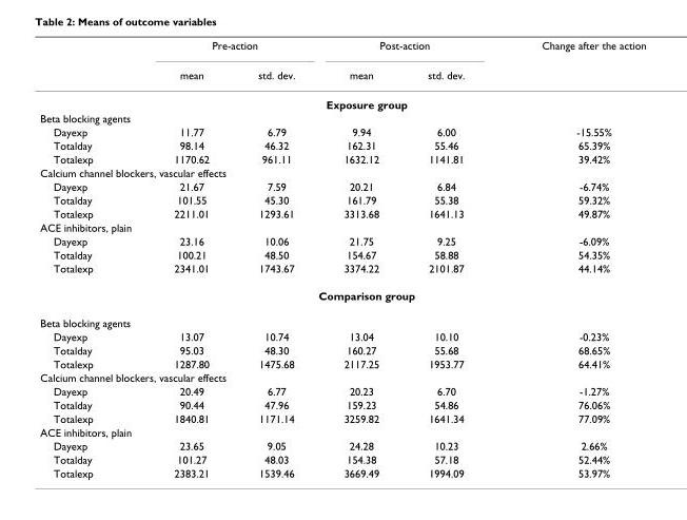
<table><thead><tr><td rowspan="2"></td><td colspan="2">Pre-action</td><td colspan="2">Post-action</td><td rowspan="2">Change after the action</td></tr><tr><td>mean</td><td>std. dev.</td><td>mean</td><td>std. dev.</td></tr></thead><tbody><tr><td colspan="6">Exposure group</td></tr><tr><td colspan="6">Beta blocking agents</td></tr><tr><td>Dayexp</td><td>11.77</td><td>6.79</td><td>9.94</td><td>6.00</td><td>-15.55%</td></tr><tr><td>Totalday</td><td>98.14</td><td>46.32</td><td>162.31</td><td>55.46</td><td>65.39%</td></tr><tr><td>Totalexp</td><td>1170.62</td><td>961.11</td><td>1632.12</td><td>1141.81</td><td>39.42%</td></tr><tr><td colspan="6">Calcium channel blockers, vascular effects</td></tr><tr><td>Dayexp</td><td>21.67</td><td>7.59</td><td>20.21</td><td>6.84</td><td>-6.74%</td></tr><tr><td>Totalday</td><td>101.55</td><td>45.30</td><td>161.79</td><td>55.38</td><td>59.32%</td></tr><tr><td>Totalexp</td><td>2211.01</td><td>1293.61</td><td>3313.68</td><td>1641.13</td><td>49.87%</td></tr><tr><td colspan="6">ACE inhibitors, plain</td></tr><tr><td>Dayexp</td><td>23.16</td><td>10.06</td><td>21.75</td><td>9.25</td><td>-6.09%</td></tr><tr><td>Totalday</td><td>100.21</td><td>48.50</td><td>154.67</td><td>58.88</td><td>54.35%</td></tr><tr><td>Totalexp</td><td>2341.01</td><td>1743.67</td><td>3374.22</td><td>2101.87</td><td>44.14%</td></tr><tr><td colspan="6">Comparison group</td></tr><tr><td colspan="6">Beta blocking agents</td></tr><tr><td>Dayexp</td><td>13.07</td><td>10.74</td><td>13.04</td><td>10.10</td><td>-0.23%</td></tr><tr><td>Totalday</td><td>95.03</td><td>48.30</td><td>160.27</td><td>55.68</td><td>68.65%</td></tr><tr><td>Totalexp</td><td>1287.80</td><td>1475.68</td><td>2117.25</td><td>1953.77</td><td>64.41%</td></tr><tr><td colspan="6">Calcium channel blockers, vascular effects</td></tr><tr><td>Dayexp</td><td>20.49</td><td>6.77</td><td>20.23</td><td>6.70</td><td>-1.27%</td></tr><tr><td>Totalday</td><td>90.44</td><td>47.96</td><td>159.23</td><td>54.86</td><td>76.06%</td></tr><tr><td>Totalexp</td><td>1840.81</td><td>1171.14</td><td>3259.82</td><td>1641.34</td><td>77.09%</td></tr><tr><td colspan="6">ACE inhibitors, plain</td></tr><tr><td>Dayexp</td><td>23.65</td><td>9.05</td><td>24.28</td><td>10.23</td><td>2.66%</td></tr><tr><td>Totalday</td><td>101.27</td><td>48.03</td><td>154.38</td><td>57.18</td><td>52.44%</td></tr><tr><td>Totalexp</td><td>2383.21</td><td>1539.46</td><td>3669.49</td><td>1994.09</td><td>53.97%</td></tr></tbody></table>